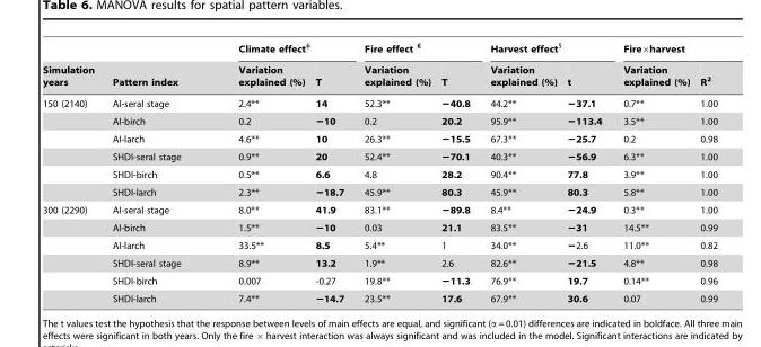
<table><thead><tr><td rowspan="2">Simulation years</td><td rowspan="2">Pattern index</td><td colspan="2">Climate effect</td><td colspan="2">Fire effect £</td><td colspan="2">Harvest effect§</td><td colspan="2">Fire×harvest</td></tr><tr><td>Variation explained (%)</td><td>T</td><td>Variation explained (%)</td><td>T</td><td>Variation explained (%)</td><td>t</td><td>Variation explained (%)</td><td>R<sup>2</sup></td></tr></thead><tbody><tr><td rowspan="6">150 (2140)</td><td>AI-seral stage</td><td>2.4**</td><td>14</td><td>52.3**</td><td>−40.8</td><td>44.2**</td><td>−37.1</td><td>0.7**</td><td>1.00</td></tr><tr><td>AI-birch</td><td>0.2</td><td>−10</td><td>0.2</td><td>20.2</td><td>95.9**</td><td>−113.4</td><td>3.5**</td><td>1.00</td></tr><tr><td>AI-larch</td><td>4.6**</td><td>10</td><td>26.3**</td><td>−15.5</td><td>67.3**</td><td>−25.7</td><td>0.2</td><td>0.98</td></tr><tr><td>SHDI-seral stage</td><td>0.9**</td><td>20</td><td>52.4**</td><td>−70.1</td><td>40.3**</td><td>−56.9</td><td>6.3**</td><td>1.00</td></tr><tr><td>SHDI-birch</td><td>0.5**</td><td>6.6</td><td>4.8</td><td>28.2</td><td>90.4**</td><td>77.8</td><td>3.9**</td><td>1.00</td></tr><tr><td>SHDI-larch</td><td>2.3**</td><td>−18.7</td><td>45.9**</td><td>80.3</td><td>45.9**</td><td>80.3</td><td>5.8**</td><td>1.00</td></tr><tr><td rowspan="6">300 (2290)</td><td>AI-seral stage</td><td>8.0**</td><td>41.9</td><td>83.1**</td><td>−89.8</td><td>8.4**</td><td>−24.9</td><td>0.3**</td><td>1.00</td></tr><tr><td>AI-birch</td><td>1.5**</td><td>−10</td><td>0.03</td><td>21.1</td><td>83.5**</td><td>−31</td><td>14.5**</td><td>0.99</td></tr><tr><td>AI-larch</td><td>33.5**</td><td>8.5</td><td>5.4**</td><td>1</td><td>34.0**</td><td>−2.6</td><td>11.0**</td><td>0.82</td></tr><tr><td>SHDI-seral stage</td><td>8.9**</td><td>13.2</td><td>1.9**</td><td>2.6</td><td>82.6**</td><td>−21.5</td><td>4.8**</td><td>0.98</td></tr><tr><td>SHDI-birch</td><td>0.007</td><td>-0.27</td><td>19.8**</td><td>−11.3</td><td>76.9**</td><td>19.7</td><td>0.14**</td><td>0.96</td></tr><tr><td>SHDI-larch</td><td>7.4**</td><td>−14.7</td><td>23.5**</td><td>17.6</td><td>67.9**</td><td>30.6</td><td>0.07</td><td>0.99</td></tr></tbody></table>